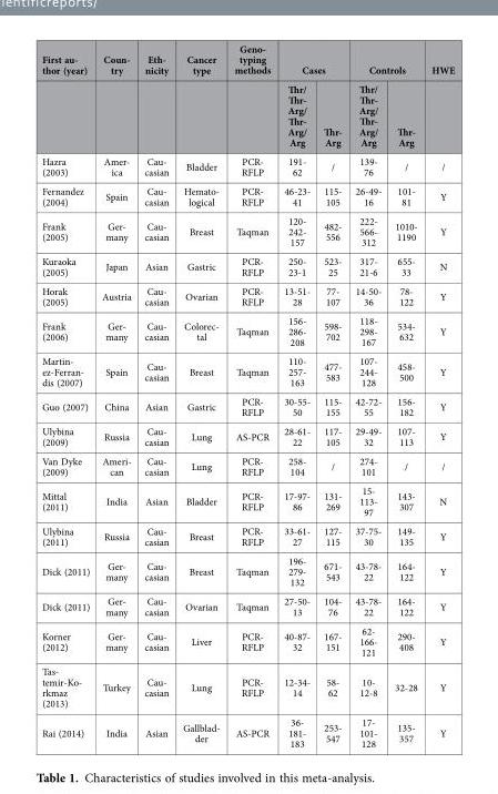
<table><thead><tr><td rowspan="2">First au- thor (year)</td><td rowspan="2">Coun- try</td><td rowspan="2">Eth- nicity</td><td rowspan="2">Cancer type</td><td rowspan="2">Geno- typing methods</td><td colspan="2">Cases</td><td colspan="2">Controls</td><td rowspan="2">HWE</td></tr><tr><td>Thr/ Thr- Arg/ Thr- Arg/ Arg</td><td>Thr- Arg</td><td>Thr/ Thr- Arg/ Thr- Arg/ Arg</td><td>Thr- Arg</td></tr></thead><tbody><tr><td>Hazra (2003)</td><td>Amer- ica</td><td>Cau- casian</td><td>Bladder</td><td>PCR- RFLP</td><td>191- 62</td><td>/</td><td>139- 76</td><td>/</td><td>/</td></tr><tr><td>Fernandez (2004)</td><td>Spain</td><td>Cau- casian</td><td>Hemato- logical</td><td>PCR- RFLP</td><td>46-23- 41</td><td>115- 105</td><td>26-49- 16</td><td>101- 81</td><td>Y</td></tr><tr><td>Frank (2005)</td><td>Ger- many</td><td>Cau- casian</td><td>Breast</td><td>Taqman</td><td>120- 242- 157</td><td>482- 556</td><td>222- 566- 312</td><td>1010- 1190</td><td>Y</td></tr><tr><td>Kuraoka (2005)</td><td>Japan</td><td>Asian</td><td>Gastric</td><td>PCR- RFLP</td><td>250- 23-1</td><td>523- 25</td><td>317- 21-6</td><td>655- 33</td><td>N</td></tr><tr><td>Horak (2005)</td><td>Austria</td><td>Cau- casian</td><td>Ovarian</td><td>PCR- RFLP</td><td>13-51- 28</td><td>77- 107</td><td>14-50- 36</td><td>78- 122</td><td>Y</td></tr><tr><td>Frank (2006)</td><td>Ger- many</td><td>Cau- casian</td><td>Colorec- tal</td><td>Taqman</td><td>156- 286- 208</td><td>598- 702</td><td>118- 298- 167</td><td>534- 632</td><td>Y</td></tr><tr><td>Martin- ez-Ferran- dis (2007)</td><td>Spain</td><td>Cau- casian</td><td>Breast</td><td>Taqman</td><td>110- 257- 163</td><td>477- 583</td><td>107- 244- 128</td><td>458- 500</td><td>Y</td></tr><tr><td>Guo (2007)</td><td>China</td><td>Asian</td><td>Gastric</td><td>PCR- RFLP</td><td>30-55- 50</td><td>115- 155</td><td>42-72- 55</td><td>156- 182</td><td>Y</td></tr><tr><td>Ulybina (2009)</td><td>Russia</td><td>Cau- casian</td><td>Lung</td><td>AS-PCR</td><td>28-61- 22</td><td>117- 105</td><td>29-49- 32</td><td>107- 113</td><td>Y</td></tr><tr><td>Van Dyke (2009)</td><td>Ameri- can</td><td>Cau- casian</td><td>Lung</td><td>PCR- RFLP</td><td>258- 104</td><td>/</td><td>274- 101</td><td>/</td><td>/</td></tr><tr><td>Mittal (2011)</td><td>India</td><td>Asian</td><td>Bladder</td><td>PCR- RFLP</td><td>17-97- 86</td><td>131- 269</td><td>15- 113- 97</td><td>143- 307</td><td>N</td></tr><tr><td>Ulybina (2011)</td><td>Russia</td><td>Cau- casian</td><td>Breast</td><td>PCR- RFLP</td><td>33-61- 27</td><td>127- 115</td><td>37-75- 30</td><td>149- 135</td><td>Y</td></tr><tr><td>Dick (2011)</td><td>Ger- many</td><td>Cau- casian</td><td>Breast</td><td>Taqman</td><td>196- 279- 132</td><td>671- 543</td><td>43-78- 22</td><td>164- 122</td><td>Y</td></tr><tr><td>Dick (2011)</td><td>Ger- many</td><td>Cau- casian</td><td>Ovarian</td><td>Taqman</td><td>27-50- 13</td><td>104- 76</td><td>43-78- 22</td><td>164- 122</td><td>Y</td></tr><tr><td>Korner (2012)</td><td>Ger- many</td><td>Cau- casian</td><td>Liver</td><td>PCR- RFLP</td><td>40-87- 32</td><td>167- 151</td><td>62- 166- 121</td><td>290- 408</td><td>Y</td></tr><tr><td>Tas- temir-Ko- rkmaz (2013)</td><td>Turkey</td><td>Cau- casian</td><td>Lung</td><td>PCR- RFLP</td><td>12-34- 14</td><td>58- 62</td><td>10- 12-8</td><td>32-28</td><td>Y</td></tr><tr><td>Rai (2014)</td><td>India</td><td>Asian</td><td>Gallblad- der</td><td>AS-PCR</td><td>36- 181- 183</td><td>253- 547</td><td>17- 101- 128</td><td>135- 357</td><td>Y</td></tr></tbody></table>